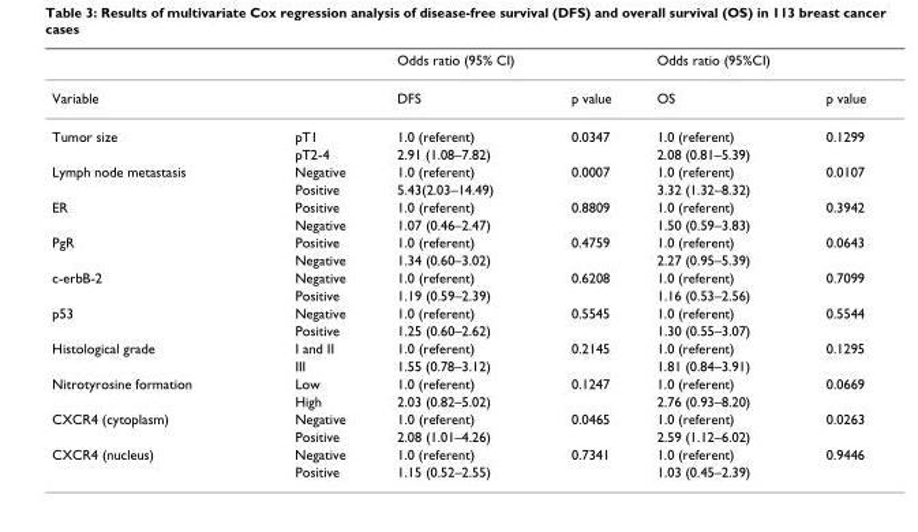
<table><thead><tr><td rowspan="2">Variable</td><td rowspan="2"></td><td colspan="2">Odds ratio (95% CI)</td><td colspan="2">Odds ratio (95%CI)</td></tr><tr><td>DFS</td><td>p value</td><td>OS</td><td>p value</td></tr></thead><tbody><tr><td rowspan="2">Tumor size</td><td>pT1</td><td>1.0 (referent)</td><td>0.0347</td><td>1.0 (referent)</td><td>0.1299</td></tr><tr><td>pT2-4</td><td>2.91 (1.08–7.82)</td><td></td><td>2.08 (0.81–5.39)</td><td></td></tr><tr><td rowspan="2">Lymph node metastasis</td><td>Negative</td><td>1.0 (referent)</td><td>0.0007</td><td>1.0 (referent)</td><td>0.0107</td></tr><tr><td>Positive</td><td>5.43(2.03–14.49)</td><td></td><td>3.32 (1.32–8.32)</td><td></td></tr><tr><td rowspan="2">ER</td><td>Positive</td><td>1.0 (referent)</td><td>0.8809</td><td>1.0 (referent)</td><td>0.3942</td></tr><tr><td>Negative</td><td>1.07 (0.46–2.47)</td><td></td><td>1.50 (0.59–3.83)</td><td></td></tr><tr><td rowspan="2">PgR</td><td>Positive</td><td>1.0 (referent)</td><td>0.4759</td><td>1.0 (referent)</td><td>0.0643</td></tr><tr><td>Negative</td><td>1.34 (0.60–3.02)</td><td></td><td>2.27 (0.95–5.39)</td><td></td></tr><tr><td rowspan="2">c-erbB-2</td><td>Negative</td><td>1.0 (referent)</td><td>0.6208</td><td>1.0 (referent)</td><td>0.7099</td></tr><tr><td>Positive</td><td>1.19 (0.59–2.39)</td><td></td><td>1.16 (0.53–2.56)</td><td></td></tr><tr><td rowspan="2">p53</td><td>Negative</td><td>1.0 (referent)</td><td>0.5545</td><td>1.0 (referent)</td><td>0.5544</td></tr><tr><td>Positive</td><td>1.25 (0.60–2.62)</td><td></td><td>1.30 (0.55–3.07)</td><td></td></tr><tr><td rowspan="2">Histological grade</td><td>I and II</td><td>1.0 (referent)</td><td>0.2145</td><td>1.0 (referent)</td><td>0.1295</td></tr><tr><td>III</td><td>1.55 (0.78–3.12)</td><td></td><td>1.81 (0.84–3.91)</td><td></td></tr><tr><td rowspan="2">Nitrotyrosine formation</td><td>Low</td><td>1.0 (referent)</td><td>0.1247</td><td>1.0 (referent)</td><td>0.0669</td></tr><tr><td>High</td><td>2.03 (0.82–5.02)</td><td></td><td>2.76 (0.93–8.20)</td><td></td></tr><tr><td rowspan="2">CXCR4 (cytoplasm)</td><td>Negative</td><td>1.0 (referent)</td><td>0.0465</td><td>1.0 (referent)</td><td>0.0263</td></tr><tr><td>Positive</td><td>2.08 (1.01–4.26)</td><td></td><td>2.59 (1.12–6.02)</td><td></td></tr><tr><td rowspan="2">CXCR4 (nucleus)</td><td>Negative</td><td>1.0 (referent)</td><td>0.7341</td><td>1.0 (referent)</td><td>0.9446</td></tr><tr><td>Positive</td><td>1.15 (0.52–2.55)</td><td></td><td>1.03 (0.45–2.39)</td><td></td></tr></tbody></table>